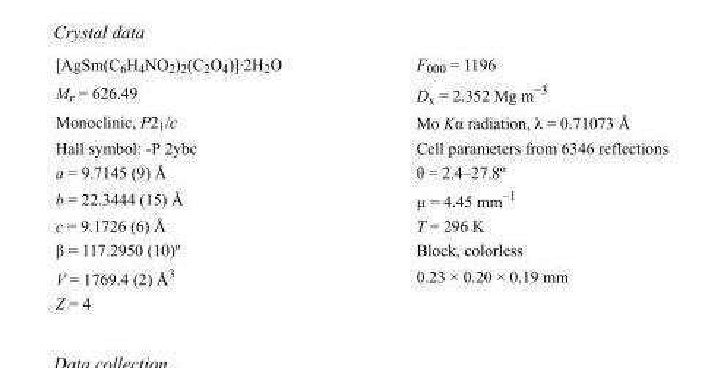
<table><tbody><tr><td>[AgSm(C<sub>6</sub>H<sub>4</sub>NO<sub>2</sub>)<sub>2</sub>(C<sub>2</sub>O<sub>4</sub>)]·2H<sub>2</sub>O</td><td>F000 = 1196</td></tr><tr><td>M<sub>r</sub> = 626.49</td><td>D<sub>x</sub> = 2.352 Mg m<sup>−3</sup></td></tr><tr><td>Monoclinic, P2<sub>1</sub>/c</td><td>Mo Kα radiation, λ = 0.71073 Å</td></tr><tr><td>Hall symbol: -P 2ybc</td><td>Cell parameters from 6346 reflections</td></tr><tr><td>a = 9.7145 (9) Å</td><td>θ = 2.4–27.8º</td></tr><tr><td>b = 22.3444 (15) Å</td><td>µ = 4.45 mm<sup>−1</sup></td></tr><tr><td>c = 9.1726 (6) Å</td><td>T = 296 K</td></tr><tr><td>β = 117.2950 (10)º</td><td>Block, colorless</td></tr><tr><td>V = 1769.4 (2) Å<sup>3</sup></td><td>0.23 × 0.20 × 0.19 mm</td></tr><tr><td>Z = 4</td><td></td></tr></tbody></table>